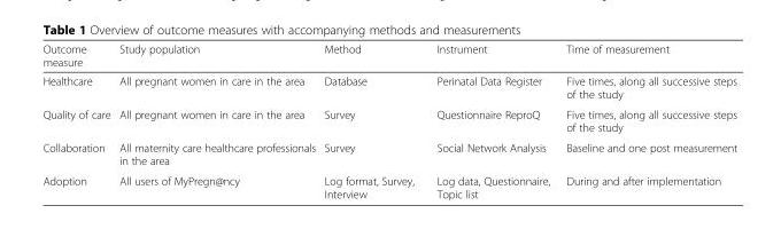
<table><thead><tr><td>Outcome measure</td><td>Study population</td><td>Method</td><td>Instrument</td><td>Time of measurement</td></tr></thead><tbody><tr><td>Healthcare</td><td>All pregnant women in care in the area</td><td>Database</td><td>Perinatal Data Register</td><td>Five times, along all successive steps of the study</td></tr><tr><td>Quality of care</td><td>All pregnant women in care in the area</td><td>Survey</td><td>Questionnaire ReproQ</td><td>Five times, along all successive steps of the study</td></tr><tr><td>Collaboration</td><td>All maternity care healthcare professionals in the area</td><td>Survey</td><td>Social Network Analysis</td><td>Baseline and one post measurement</td></tr><tr><td>Adoption</td><td>All users of MyPregn@ncy</td><td>Log format, Survey, Interview</td><td>Log data, Questionnaire, Topic list</td><td>During and after implementation</td></tr></tbody></table>